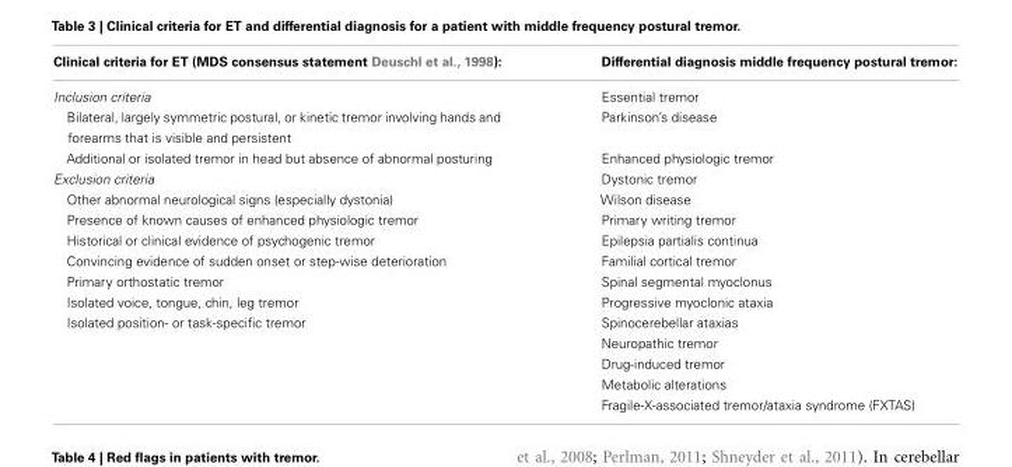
<table><thead><tr><td>Clinical criteria for ET (MDS consensus statement Deuschl et al., 1998):</td><td>Differential diagnosis middle frequency postural tremor:</td></tr></thead><tbody><tr><td>Inclusion criteria</td><td>Essential tremor</td></tr><tr><td>Bilateral, largely symmetric postural, or kinetic tremor involving hands and forearms that is visible and persistent</td><td>Parkinson’s disease</td></tr><tr><td>Additional or isolated tremor in head but absence of abnormal posturing</td><td>Enhanced physiologic tremor</td></tr><tr><td>Exclusion criteria</td><td>Dystonic tremor</td></tr><tr><td>Other abnormal neurological signs (especially dystonia)</td><td>Wilson disease</td></tr><tr><td>Presence of known causes of enhanced physiologic tremor</td><td>Primary writing tremor</td></tr><tr><td>Historical or clinical evidence of psychogenic tremor</td><td>Epilepsia partialis continua</td></tr><tr><td>Convincing evidence of sudden onset or step-wise deterioration</td><td>Familial cortical tremor</td></tr><tr><td>Primary orthostatic tremor</td><td>Spinal segmental myoclonus</td></tr><tr><td>Isolated voice, tongue, chin, leg tremor</td><td>Progressive myoclonic ataxia</td></tr><tr><td rowspan="5">Isolated position- or task-specific tremor</td><td>Spinocerebellar ataxias</td></tr><tr><td>Neuropathic tremor</td></tr><tr><td>Drug-induced tremor</td></tr><tr><td>Metabolic alterations</td></tr><tr><td>Fragile-X-associated tremor/ataxia syndrome (FXTAS)</td></tr></tbody></table>